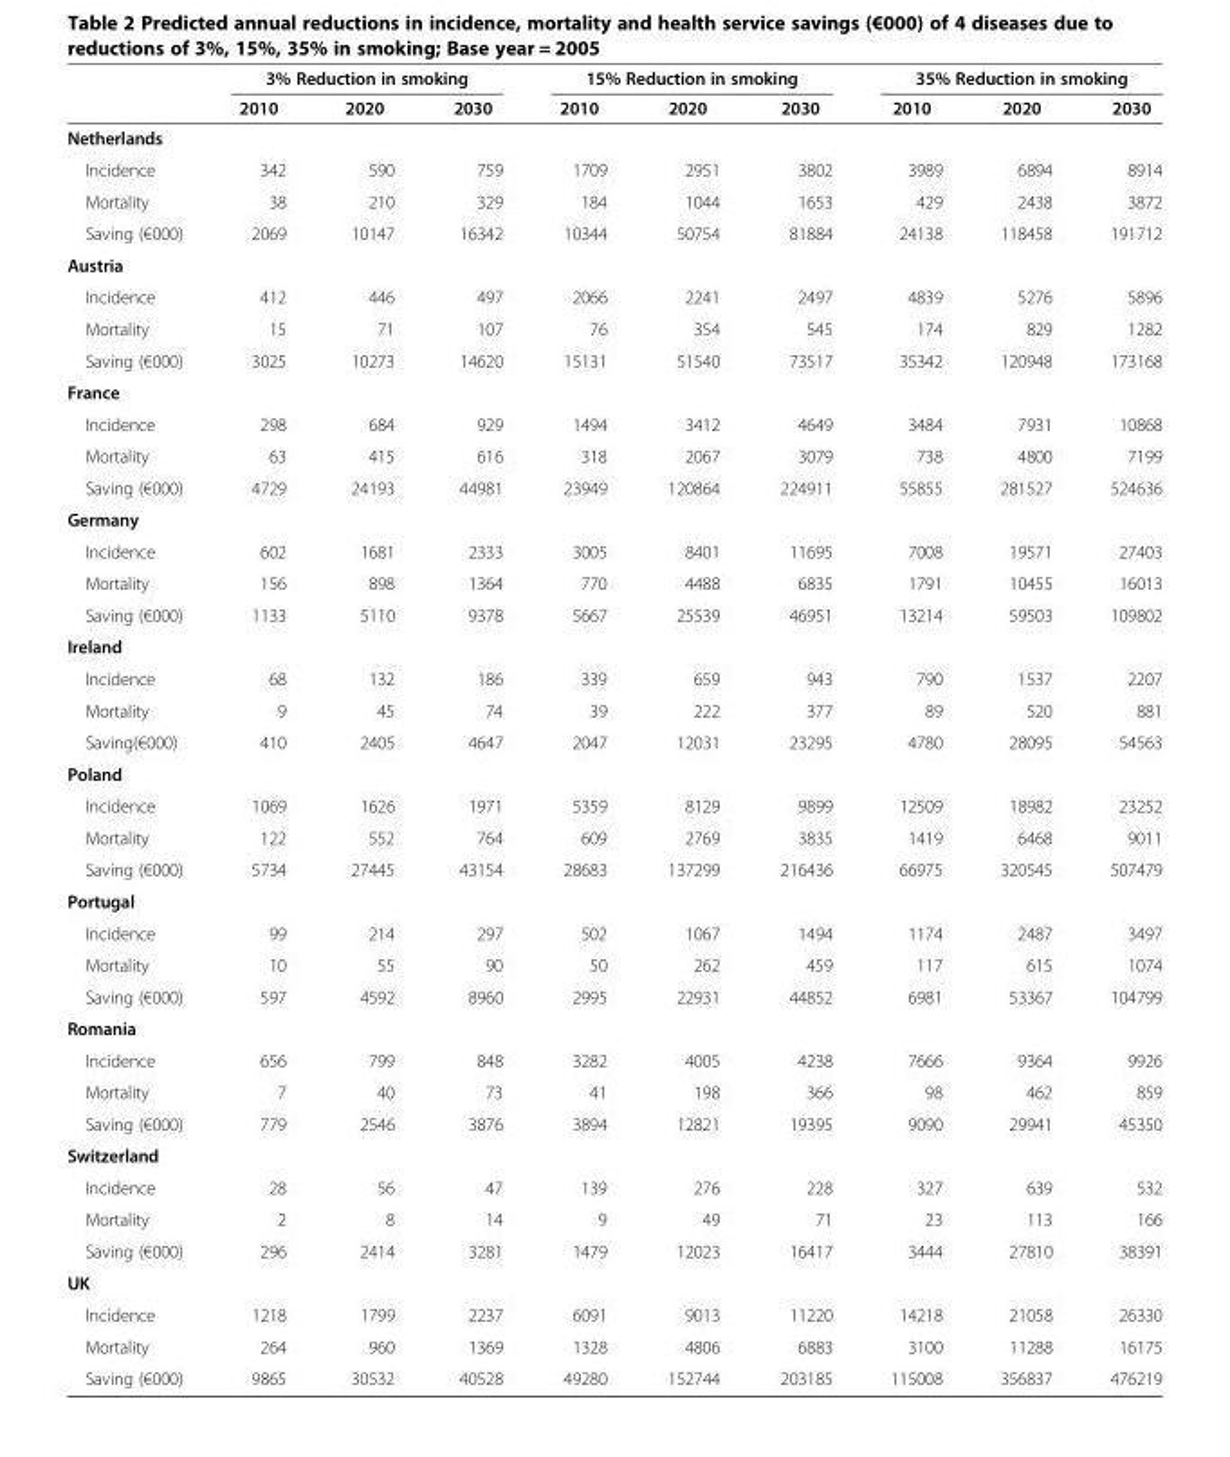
<table><thead><tr><td rowspan="2"></td><td colspan="3">3% Reduction in smoking</td><td colspan="3">15% Reduction in smoking</td><td colspan="3">35% Reduction in smoking</td></tr><tr><td>2010</td><td>2020</td><td>2030</td><td>2010</td><td>2020</td><td>2030</td><td>2010</td><td>2020</td><td>2030</td></tr></thead><tbody><tr><td colspan="10">Netherlands</td></tr><tr><td>Incidence</td><td>342</td><td>590</td><td>759</td><td>1709</td><td>2951</td><td>3802</td><td>3989</td><td>6894</td><td>8914</td></tr><tr><td>Mortality</td><td>38</td><td>210</td><td>329</td><td>184</td><td>1044</td><td>1653</td><td>429</td><td>2438</td><td>3872</td></tr><tr><td>Saving (€000)</td><td>2069</td><td>10147</td><td>16342</td><td>10344</td><td>50754</td><td>81884</td><td>24138</td><td>118458</td><td>191712</td></tr><tr><td colspan="10">Austria</td></tr><tr><td>Incidence</td><td>412</td><td>446</td><td>497</td><td>2066</td><td>2241</td><td>2497</td><td>4839</td><td>5276</td><td>5896</td></tr><tr><td>Mortality</td><td>15</td><td>71</td><td>107</td><td>76</td><td>354</td><td>545</td><td>174</td><td>829</td><td>1282</td></tr><tr><td>Saving (€000)</td><td>3025</td><td>10273</td><td>14620</td><td>15131</td><td>51540</td><td>73517</td><td>35342</td><td>120948</td><td>173168</td></tr><tr><td colspan="10">France</td></tr><tr><td>Incidence</td><td>298</td><td>684</td><td>929</td><td>1494</td><td>3412</td><td>4649</td><td>3484</td><td>7931</td><td>10868</td></tr><tr><td>Mortality</td><td>63</td><td>415</td><td>616</td><td>318</td><td>2067</td><td>3079</td><td>738</td><td>4800</td><td>7199</td></tr><tr><td>Saving (€000)</td><td>4729</td><td>24193</td><td>44981</td><td>23949</td><td>120864</td><td>224911</td><td>55855</td><td>281527</td><td>524636</td></tr><tr><td colspan="10">Germany</td></tr><tr><td>Incidence</td><td>602</td><td>1681</td><td>2333</td><td>3005</td><td>8401</td><td>11695</td><td>7008</td><td>19571</td><td>27403</td></tr><tr><td>Mortality</td><td>156</td><td>898</td><td>1364</td><td>770</td><td>4488</td><td>6835</td><td>1791</td><td>10455</td><td>16013</td></tr><tr><td>Saving (€000)</td><td>1133</td><td>5110</td><td>9378</td><td>5667</td><td>25539</td><td>46951</td><td>13214</td><td>59503</td><td>109802</td></tr><tr><td colspan="10">Ireland</td></tr><tr><td>Incidence</td><td>68</td><td>132</td><td>186</td><td>339</td><td>659</td><td>943</td><td>790</td><td>1537</td><td>2207</td></tr><tr><td>Mortality</td><td>9</td><td>45</td><td>74</td><td>39</td><td>222</td><td>377</td><td>89</td><td>520</td><td>881</td></tr><tr><td>Saving(€000)</td><td>410</td><td>2405</td><td>4647</td><td>2047</td><td>12031</td><td>23295</td><td>4780</td><td>28095</td><td>54563</td></tr><tr><td colspan="10">Poland</td></tr><tr><td>Incidence</td><td>1069</td><td>1626</td><td>1971</td><td>5359</td><td>8129</td><td>9899</td><td>12509</td><td>18982</td><td>23252</td></tr><tr><td>Mortality</td><td>122</td><td>552</td><td>764</td><td>609</td><td>2769</td><td>3835</td><td>1419</td><td>6468</td><td>9011</td></tr><tr><td>Saving (€000)</td><td>5734</td><td>27445</td><td>43154</td><td>28683</td><td>137299</td><td>216436</td><td>66975</td><td>320545</td><td>507479</td></tr><tr><td colspan="10">Portugal</td></tr><tr><td>Incidence</td><td>99</td><td>214</td><td>297</td><td>502</td><td>1067</td><td>1494</td><td>1174</td><td>2487</td><td>3497</td></tr><tr><td>Mortality</td><td>10</td><td>55</td><td>90</td><td>50</td><td>262</td><td>459</td><td>117</td><td>615</td><td>1074</td></tr><tr><td>Saving (€000)</td><td>597</td><td>4592</td><td>8960</td><td>2995</td><td>22931</td><td>44852</td><td>6981</td><td>53367</td><td>104799</td></tr><tr><td colspan="10">Romania</td></tr><tr><td>Incidence</td><td>656</td><td>799</td><td>848</td><td>3282</td><td>4005</td><td>4238</td><td>7666</td><td>9364</td><td>9926</td></tr><tr><td>Mortality</td><td>7</td><td>40</td><td>73</td><td>41</td><td>198</td><td>366</td><td>98</td><td>462</td><td>859</td></tr><tr><td>Saving (€000)</td><td>779</td><td>2546</td><td>3876</td><td>3894</td><td>12821</td><td>19395</td><td>9090</td><td>29941</td><td>45350</td></tr><tr><td colspan="10">Switzerland</td></tr><tr><td>Incidence</td><td>28</td><td>56</td><td>47</td><td>139</td><td>276</td><td>228</td><td>327</td><td>639</td><td>532</td></tr><tr><td>Mortality</td><td>2</td><td>8</td><td>14</td><td>9</td><td>49</td><td>71</td><td>23</td><td>113</td><td>166</td></tr><tr><td>Saving (€000)</td><td>296</td><td>2414</td><td>3281</td><td>1479</td><td>12023</td><td>16417</td><td>3444</td><td>27810</td><td>38391</td></tr><tr><td colspan="10">UK</td></tr><tr><td>Incidence</td><td>1218</td><td>1799</td><td>2237</td><td>6091</td><td>9013</td><td>11220</td><td>14218</td><td>21058</td><td>26330</td></tr><tr><td>Mortality</td><td>264</td><td>960</td><td>1369</td><td>1328</td><td>4806</td><td>6883</td><td>3100</td><td>11288</td><td>16175</td></tr><tr><td>Saving (€000)</td><td>9865</td><td>30532</td><td>40528</td><td>49280</td><td>152744</td><td>203185</td><td>115008</td><td>356837</td><td>476219</td></tr></tbody></table>